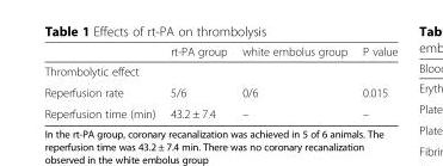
<table><thead><tr><td></td><td>rt-PA group</td><td>white embolus group</td><td>P value</td></tr></thead><tbody><tr><td colspan="4">Thrombolytic effect</td></tr><tr><td>Reperfusion rate</td><td>5/6</td><td>0/6</td><td>0.015</td></tr><tr><td>Reperfusion time (min)</td><td>43.2 ± 7.4</td><td>–</td><td>–</td></tr></tbody></table>